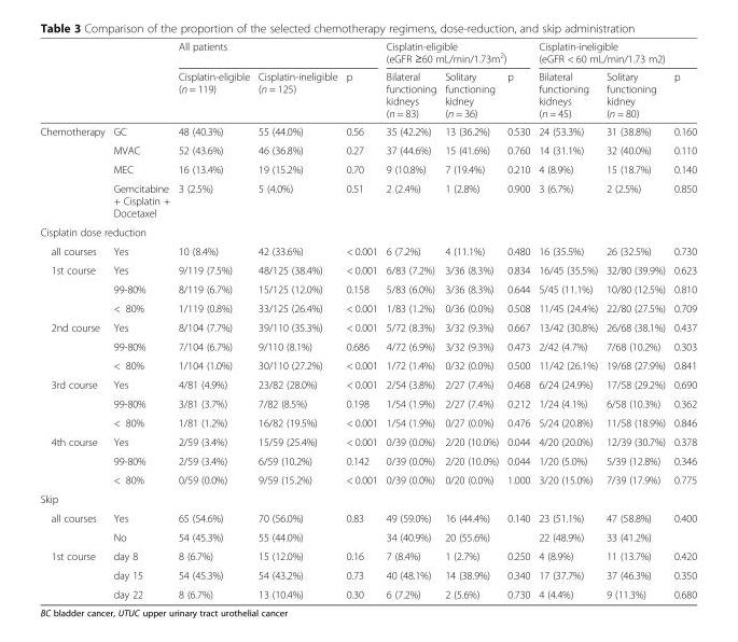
<table><thead><tr><td rowspan="2"></td><td rowspan="2"></td><td colspan="3">All patients</td><td colspan="3">Cisplatin-eligible (eGFR ≥60 mL/min/1.73m<sup>2</sup>)</td><td colspan="3">Cisplatin-ineligible (eGFR &lt; 60 mL/min/1.73 m2)</td></tr><tr><td>Cisplatin-eligible (n = 119)</td><td>Cisplatin-ineligible (n = 125)</td><td>p</td><td>Bilateral functioning kidneys (n = 83)</td><td>Solitary functioning kidney (n = 36)</td><td>p</td><td>Bilateral functioning kidneys (n = 45)</td><td>Solitary functioning kidney (n = 80)</td><td>p</td></tr></thead><tbody><tr><td rowspan="4">Chemotherapy</td><td>GC</td><td>48 (40.3%)</td><td>55 (44.0%)</td><td>0.56</td><td>35 (42.2%)</td><td>13 (36.2%)</td><td>0.530</td><td>24 (53.3%)</td><td>31 (38.8%)</td><td>0.160</td></tr><tr><td>MVAC</td><td>52 (43.6%)</td><td>46 (36.8%)</td><td>0.27</td><td>37 (44.6%)</td><td>15 (41.6%)</td><td>0.760</td><td>14 (31.1%)</td><td>32 (40.0%)</td><td>0.110</td></tr><tr><td>MEC</td><td>16 (13.4%)</td><td>19 (15.2%)</td><td>0.70</td><td>9 (10.8%)</td><td>7 (19.4%)</td><td>0.210</td><td>4 (8.9%)</td><td>15 (18.7%)</td><td>0.140</td></tr><tr><td>Gemcitabine + Cisplatin + Docetaxel</td><td>3 (2.5%)</td><td>5 (4.0%)</td><td>0.51</td><td>2 (2.4%)</td><td>1 (2.8%)</td><td>0.900</td><td>3 (6.7%)</td><td>2 (2.5%)</td><td>0.850</td></tr><tr><td colspan="11">Cisplatin dose reduction</td></tr><tr><td>all courses</td><td>Yes</td><td>10 (8.4%)</td><td>42 (33.6%)</td><td>&lt; 0.001</td><td>6 (7.2%)</td><td>4 (11.1%)</td><td>0.480</td><td>16 (35.5%)</td><td>26 (32.5%)</td><td>0.730</td></tr><tr><td rowspan="3">1st course</td><td>Yes</td><td>9/119 (7.5%)</td><td>48/125 (38.4%)</td><td>&lt; 0.001</td><td>6/83 (7.2%)</td><td>3/36 (8.3%)</td><td>0.834</td><td>16/45 (35.5%)</td><td>32/80 (39.9%)</td><td>0.623</td></tr><tr><td>99-80%</td><td>8/119 (6.7%)</td><td>15/125 (12.0%)</td><td>0.158</td><td>5/83 (6.0%)</td><td>3/36 (8.3%)</td><td>0.644</td><td>5/45 (11.1%)</td><td>10/80 (12.5%)</td><td>0.810</td></tr><tr><td>&lt; 80%</td><td>1/119 (0.8%)</td><td>33/125 (26.4%)</td><td>&lt; 0.001</td><td>1/83 (1.2%)</td><td>0/36 (0.0%)</td><td>0.508</td><td>11/45 (24.4%)</td><td>22/80 (27.5%)</td><td>0.709</td></tr><tr><td rowspan="3">2nd course</td><td>Yes</td><td>8/104 (7.7%)</td><td>39/110 (35.3%)</td><td>&lt; 0.001</td><td>5/72 (8.3%)</td><td>3/32 (9.3%)</td><td>0.667</td><td>13/42 (30.8%)</td><td>26/68 (38.1%)</td><td>0.437</td></tr><tr><td>99-80%</td><td>7/104 (6.7%)</td><td>9/110 (8.1%)</td><td>0.686</td><td>4/72 (6.9%)</td><td>3/32 (9.3%)</td><td>0.473</td><td>2/42 (4.7%)</td><td>7/68 (10.2%)</td><td>0.303</td></tr><tr><td>&lt; 80%</td><td>1/104 (1.0%)</td><td>30/110 (27.2%)</td><td>&lt; 0.001</td><td>1/72 (1.4%)</td><td>0/32 (0.0%)</td><td>0.500</td><td>11/42 (26.1%)</td><td>19/68 (27.9%)</td><td>0.841</td></tr><tr><td rowspan="3">3rd course</td><td>Yes</td><td>4/81 (4.9%)</td><td>23/82 (28.0%)</td><td>&lt; 0.001</td><td>2/54 (3.8%)</td><td>2/27 (7.4%)</td><td>0.468</td><td>6/24 (24.9%)</td><td>17/58 (29.2%)</td><td>0.690</td></tr><tr><td>99-80%</td><td>3/81 (3.7%)</td><td>7/82 (8.5%)</td><td>0.198</td><td>1/54 (1.9%)</td><td>2/27 (7.4%)</td><td>0.212</td><td>1/24 (4.1%)</td><td>6/58 (10.3%)</td><td>0.362</td></tr><tr><td>&lt; 80%</td><td>1/81 (1.2%)</td><td>16/82 (19.5%)</td><td>&lt; 0.001</td><td>1/54 (1.9%)</td><td>0/27 (0.0%)</td><td>0.476</td><td>5/24 (20.8%)</td><td>11/58 (18.9%)</td><td>0.846</td></tr><tr><td rowspan="3">4th course</td><td>Yes</td><td>2/59 (3.4%)</td><td>15/59 (25.4%)</td><td>&lt; 0.001</td><td>0/39 (0.0%)</td><td>2/20 (10.0%)</td><td>0.044</td><td>4/20 (20.0%)</td><td>12/39 (30.7%)</td><td>0.378</td></tr><tr><td>99-80%</td><td>2/59 (3.4%)</td><td>6/59 (10.2%)</td><td>0.142</td><td>0/39 (0.0%)</td><td>2/20 (10.0%)</td><td>0.044</td><td>1/20 (5.0%)</td><td>5/39 (12.8%)</td><td>0.346</td></tr><tr><td>&lt; 80%</td><td>0/59 (0.0%)</td><td>9/59 (15.2%)</td><td>&lt; 0.001</td><td>0/39 (0.0%)</td><td>0/20 (0.0%)</td><td>1.000</td><td>3/20 (15.0%)</td><td>7/39 (17.9%)</td><td>0.775</td></tr><tr><td colspan="11">Skip</td></tr><tr><td rowspan="2">all courses</td><td>Yes</td><td>65 (54.6%)</td><td>70 (56.0%)</td><td>0.83</td><td>49 (59.0%)</td><td>16 (44.4%)</td><td>0.140</td><td>23 (51.1%)</td><td>47 (58.8%)</td><td>0.400</td></tr><tr><td>No</td><td>54 (45.3%)</td><td>55 (44.0%)</td><td></td><td>34 (40.9%)</td><td>20 (55.6%)</td><td></td><td>22 (48.9%)</td><td>33 (41.2%)</td><td></td></tr><tr><td rowspan="3">1st course</td><td>day 8</td><td>8 (6.7%)</td><td>15 (12.0%)</td><td>0.16</td><td>7 (8.4%)</td><td>1 (2.7%)</td><td>0.250</td><td>4 (8.9%)</td><td>11 (13.7%)</td><td>0.420</td></tr><tr><td>day 15</td><td>54 (45.3%)</td><td>54 (43.2%)</td><td>0.73</td><td>40 (48.1%)</td><td>14 (38.9%)</td><td>0.340</td><td>17 (37.7%)</td><td>37 (46.3%)</td><td>0.350</td></tr><tr><td>day 22</td><td>8 (6.7%)</td><td>13 (10.4%)</td><td>0.30</td><td>6 (7.2%)</td><td>2 (5.6%)</td><td>0.730</td><td>4 (4.4%)</td><td>9 (11.3%)</td><td>0.680</td></tr></tbody></table>